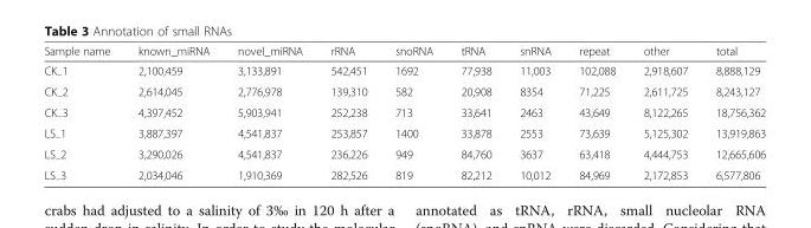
<table><thead><tr><td>Sample name</td><td>known_miRNA</td><td>novel_miRNA</td><td>rRNA</td><td>snoRNA</td><td>tRNA</td><td>snRNA</td><td>repeat</td><td>other</td><td>total</td></tr></thead><tbody><tr><td>CK<sub>−</sub>1</td><td>2,100,459</td><td>3,133,891</td><td>542,451</td><td>1692</td><td>77,938</td><td>11,003</td><td>102,088</td><td>2,918,607</td><td>8,888,129</td></tr><tr><td>CK<sub>−</sub>2</td><td>2,614,045</td><td>2,776,978</td><td>139,310</td><td>582</td><td>20,908</td><td>8354</td><td>71,225</td><td>2,611,725</td><td>8,243,127</td></tr><tr><td>CK<sub>−</sub>3</td><td>4,397,452</td><td>5,903,941</td><td>252,238</td><td>713</td><td>33,641</td><td>2463</td><td>43,649</td><td>8,122,265</td><td>18,756,362</td></tr><tr><td>LS<sub>−</sub>1</td><td>3,887,397</td><td>4,541,837</td><td>253,857</td><td>1400</td><td>33,878</td><td>2553</td><td>73,639</td><td>5,125,302</td><td>13,919,863</td></tr><tr><td>LS<sub>−</sub>2</td><td>3,290,026</td><td>4,541,837</td><td>236,226</td><td>949</td><td>84,760</td><td>3637</td><td>63,418</td><td>4,444,753</td><td>12,665,606</td></tr><tr><td>LS<sub>−</sub>3</td><td>2,034,046</td><td>1,910,369</td><td>282,526</td><td>819</td><td>82,212</td><td>10,012</td><td>84,969</td><td>2,172,853</td><td>6,577,806</td></tr></tbody></table>